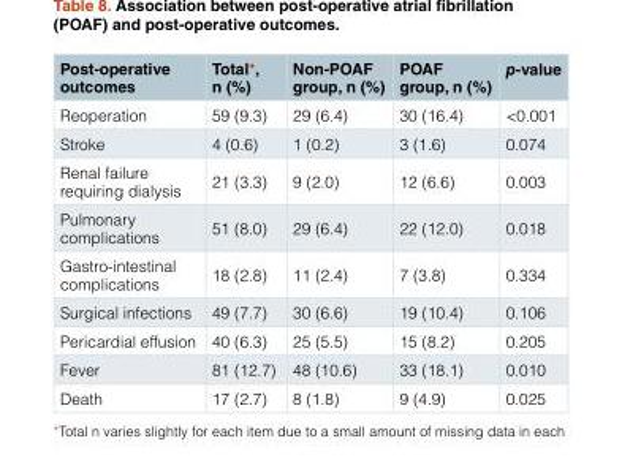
<table><thead><tr><td>Post-operative outcomes</td><td>Total*, n (%)</td><td>Non-POAF group, n (%)</td><td>POAF group, n (%)</td><td>p-value</td></tr></thead><tbody><tr><td>Reoperation</td><td>59 (9.3)</td><td>29 (6.4)</td><td>30 (16.4)</td><td>&lt;0.001</td></tr><tr><td>Stroke</td><td>4 (0.6)</td><td>1 (0.2)</td><td>3 (1.6)</td><td>0.074</td></tr><tr><td>Renal failure requiring dialysis</td><td>21 (3.3)</td><td>9 (2.0)</td><td>12 (6.6)</td><td>0.003</td></tr><tr><td>Pulmonary complications</td><td>51 (8.0)</td><td>29 (6.4)</td><td>22 (12.0)</td><td>0.018</td></tr><tr><td>Gastro-intestinal complications</td><td>18 (2.8)</td><td>11 (2.4)</td><td>7 (3.8)</td><td>0.334</td></tr><tr><td>Surgical infections</td><td>49 (7.7)</td><td>30 (6.6)</td><td>19 (10.4)</td><td>0.106</td></tr><tr><td>Pericardial effusion</td><td>40 (6.3)</td><td>25 (5.5)</td><td>15 (8.2)</td><td>0.205</td></tr><tr><td>Fever</td><td>81 (12.7)</td><td>48 (10.6)</td><td>33 (18.1)</td><td>0.010</td></tr><tr><td>Death</td><td>17 (2.7)</td><td>8 (1.8)</td><td>9 (4.9)</td><td>0.025</td></tr></tbody></table>